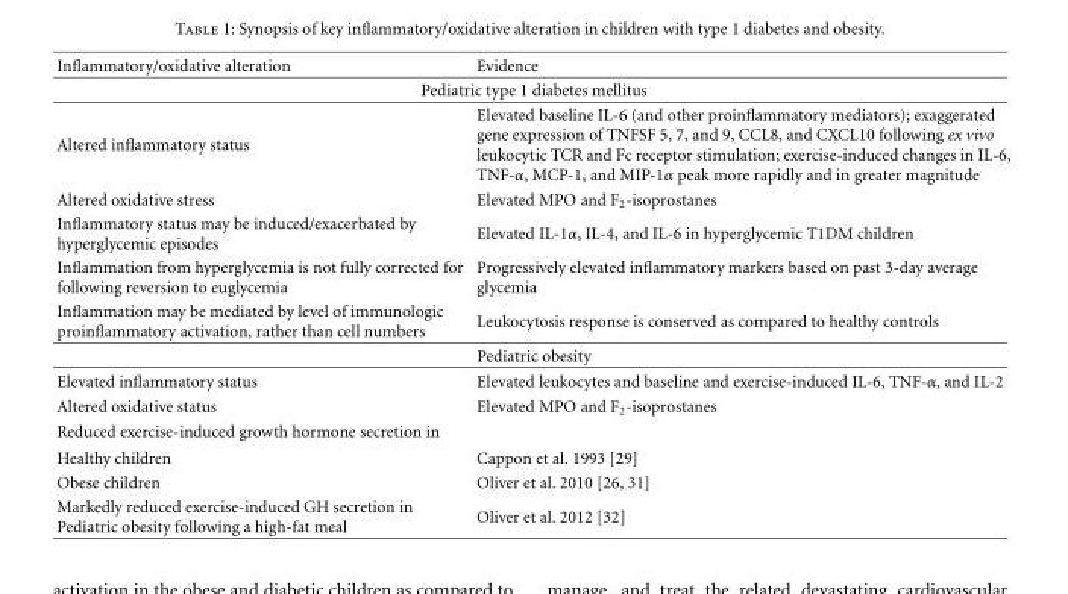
<table><thead><tr><td>Inflammatory/oxidative alteration</td><td>Evidence</td></tr></thead><tbody><tr><td colspan="2">Pediatric type 1 diabetes mellitus</td></tr><tr><td>Altered inflammatory status</td><td>Elevated baseline IL-6 (and other proinflammatory mediators); exaggerated gene expression of TNFSF 5, 7, and 9, CCL8, and CXCL10 following ex vivo leukocytic TCR and Fc receptor stimulation; exercise-induced changes in IL-6, TNF-α, MCP-1, and MIP-1α peak more rapidly and in greater magnitude</td></tr><tr><td>Altered oxidative stress</td><td>Elevated MPO and F<sub>2</sub>-isoprostanes</td></tr><tr><td>Inflammatory status may be induced/exacerbated by hyperglycemic episodes</td><td>Elevated IL-1α, IL-4, and IL-6 in hyperglycemic T1DM children</td></tr><tr><td>Inflammation from hyperglycemia is not fully corrected for following reversion to euglycemia</td><td>Progressively elevated inflammatory markers based on past 3-day average glycemia</td></tr><tr><td>Inflammation may be mediated by level of immunologic proinflammatory activation, rather than cell numbers</td><td>Leukocytosis response is conserved as compared to healthy controls</td></tr><tr><td colspan="2">Pediatric obesity</td></tr><tr><td>Elevated inflammatory status</td><td>Elevated leukocytes and baseline and exercise-induced IL-6, TNF-α, and IL-2</td></tr><tr><td>Altered oxidative status</td><td>Elevated MPO and F<sub>2</sub>-isoprostanes</td></tr><tr><td colspan="2">Reduced exercise-induced growth hormone secretion in</td></tr><tr><td>Healthy children</td><td>Cappon et al. 1993 [29]</td></tr><tr><td>Obese children</td><td>Oliver et al. 2010 [26, 31]</td></tr><tr><td>Markedly reduced exercise-induced GH secretion in Pediatric obesity following a high-fat meal</td><td>Oliver et al. 2012 [32]</td></tr></tbody></table>